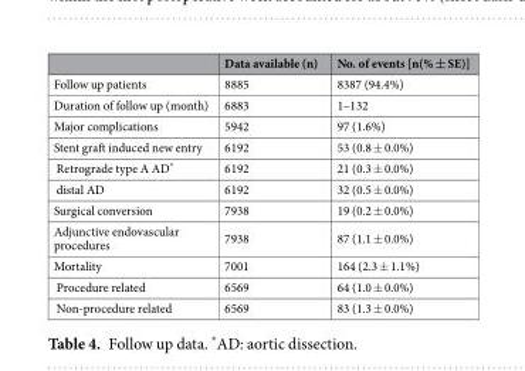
<table><thead><tr><td></td><td>Data available (n)</td><td>No. of events [n(% ± SE)]</td></tr></thead><tbody><tr><td>Follow up patients</td><td>8885</td><td>8387 (94.4%)</td></tr><tr><td>Duration of follow up (month)</td><td>6883</td><td>1–132</td></tr><tr><td>Major complications</td><td>5942</td><td>97 (1.6%)</td></tr><tr><td>Stent graft induced new entry</td><td>6192</td><td>53 (0.8 ± 0.0%)</td></tr><tr><td>Retrograde type A AD*</td><td>6192</td><td>21 (0.3 ± 0.0%)</td></tr><tr><td>distal AD</td><td>6192</td><td>32 (0.5 ± 0.0%)</td></tr><tr><td>Surgical conversion</td><td>7938</td><td>19 (0.2 ± 0.0%)</td></tr><tr><td>Adjunctive endovascular procedures</td><td>7938</td><td>87 (1.1 ± 0.0%)</td></tr><tr><td>Mortality</td><td>7001</td><td>164 (2.3 ± 1.1%)</td></tr><tr><td>Procedure related</td><td>6569</td><td>64 (1.0 ± 0.0%)</td></tr><tr><td>Non-procedure related</td><td>6569</td><td>83 (1.3 ± 0.0%)</td></tr></tbody></table>